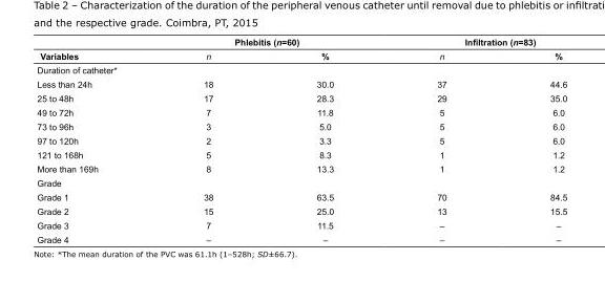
<table><thead><tr><td rowspan="2">Variables</td><td colspan="2">Phlebitis (n=60)</td><td colspan="2">Infiltration (n=83)</td></tr><tr><td>n</td><td>%</td><td>n</td><td>%</td></tr></thead><tbody><tr><td colspan="5">Duration of catheter*</td></tr><tr><td>Less than 24h</td><td>18</td><td>30.0</td><td>37</td><td>44.6</td></tr><tr><td>25 to 48h</td><td>17</td><td>28.3</td><td>29</td><td>35.0</td></tr><tr><td>49 to 72h</td><td>7</td><td>11.8</td><td>5</td><td>6.0</td></tr><tr><td>73 to 96h</td><td>3</td><td>5.0</td><td>5</td><td>6.0</td></tr><tr><td>97 to 120h</td><td>2</td><td>3.3</td><td>5</td><td>6.0</td></tr><tr><td>121 to 168h</td><td>5</td><td>8.3</td><td>1</td><td>1.2</td></tr><tr><td>More than 169h</td><td>8</td><td>13.3</td><td>1</td><td>1.2</td></tr><tr><td colspan="5">Grade</td></tr><tr><td>Grade 1</td><td>38</td><td>63.5</td><td>70</td><td>84.5</td></tr><tr><td>Grade 2</td><td>15</td><td>25.0</td><td>13</td><td>15.5</td></tr><tr><td>Grade 3</td><td>7</td><td>11.5</td><td>–</td><td>–</td></tr><tr><td>Grade 4</td><td>–</td><td>–</td><td>–</td><td>–</td></tr></tbody></table>